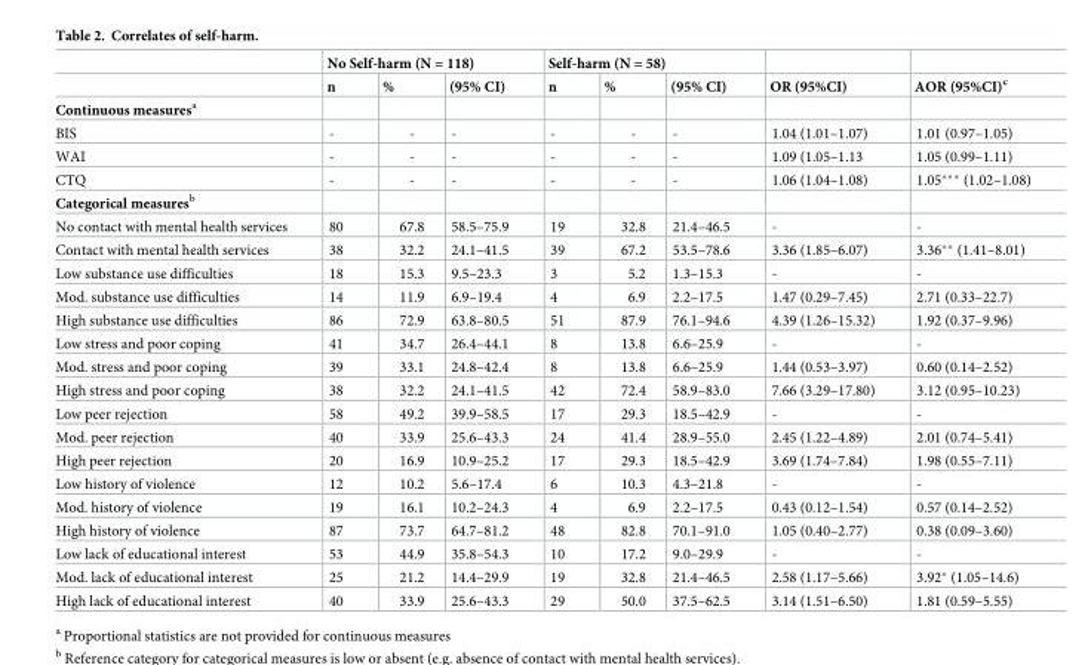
<table><thead><tr><td rowspan="2"></td><td colspan="3">No Self-harm (N = 118)</td><td colspan="3">Self-harm (N = 58)</td><td rowspan="2">OR (95%CI)</td><td rowspan="2">AOR (95%CI)<sup>c</sup></td></tr><tr><td>n</td><td>%</td><td>(95% CI)</td><td>n</td><td>%</td><td>(95% CI)</td></tr></thead><tbody><tr><td colspan="9">Continuous measures<sup>a</sup></td></tr><tr><td>BIS</td><td>-</td><td>-</td><td>-</td><td>-</td><td>-</td><td>-</td><td>1.04 (1.01–1.07)</td><td>1.01 (0.97–1.05)</td></tr><tr><td>WAI</td><td>-</td><td>-</td><td>-</td><td>-</td><td>-</td><td>-</td><td>1.09 (1.05–1.13</td><td>1.05 (0.99–1.11)</td></tr><tr><td>CTQ</td><td>-</td><td>-</td><td>-</td><td>-</td><td>-</td><td>-</td><td>1.06 (1.04–1.08)</td><td>1.05*** (1.02–1.08)</td></tr><tr><td colspan="9">Categorical measures<sup>b</sup></td></tr><tr><td>No contact with mental health services</td><td>80</td><td>67.8</td><td>58.5–75.9</td><td>19</td><td>32.8</td><td>21.4–46.5</td><td>-</td><td>-</td></tr><tr><td>Contact with mental health services</td><td>38</td><td>32.2</td><td>24.1–41.5</td><td>39</td><td>67.2</td><td>53.5–78.6</td><td>3.36 (1.85–6.07)</td><td>3.36** (1.41–8.01)</td></tr><tr><td>Low substance use difficulties</td><td>18</td><td>15.3</td><td>9.5–23.3</td><td>3</td><td>5.2</td><td>1.3–15.3</td><td>-</td><td>-</td></tr><tr><td>Mod. substance use difficulties</td><td>14</td><td>11.9</td><td>6.9–19.4</td><td>4</td><td>6.9</td><td>2.2–17.5</td><td>1.47 (0.29–7.45)</td><td>2.71 (0.33–22.7)</td></tr><tr><td>High substance use difficulties</td><td>86</td><td>72.9</td><td>63.8–80.5</td><td>51</td><td>87.9</td><td>76.1–94.6</td><td>4.39 (1.26–15.32)</td><td>1.92 (0.37–9.96)</td></tr><tr><td>Low stress and poor coping</td><td>41</td><td>34.7</td><td>26.4–44.1</td><td>8</td><td>13.8</td><td>6.6–25.9</td><td>-</td><td>-</td></tr><tr><td>Mod. stress and poor coping</td><td>39</td><td>33.1</td><td>24.8–42.4</td><td>8</td><td>13.8</td><td>6.6–25.9</td><td>1.44 (0.53–3.97)</td><td>0.60 (0.14–2.52)</td></tr><tr><td>High stress and poor coping</td><td>38</td><td>32.2</td><td>24.1–41.5</td><td>42</td><td>72.4</td><td>58.9–83.0</td><td>7.66 (3.29–17.80)</td><td>3.12 (0.95–10.23)</td></tr><tr><td>Low peer rejection</td><td>58</td><td>49.2</td><td>39.9–58.5</td><td>17</td><td>29.3</td><td>18.5–42.9</td><td>-</td><td>-</td></tr><tr><td>Mod. peer rejection</td><td>40</td><td>33.9</td><td>25.6–43.3</td><td>24</td><td>41.4</td><td>28.9–55.0</td><td>2.45 (1.22–4.89)</td><td>2.01 (0.74–5.41)</td></tr><tr><td>High peer rejection</td><td>20</td><td>16.9</td><td>10.9–25.2</td><td>17</td><td>29.3</td><td>18.5–42.9</td><td>3.69 (1.74–7.84)</td><td>1.98 (0.55–7.11)</td></tr><tr><td>Low history of violence</td><td>12</td><td>10.2</td><td>5.6–17.4</td><td>6</td><td>10.3</td><td>4.3–21.8</td><td>-</td><td>-</td></tr><tr><td>Mod. history of violence</td><td>19</td><td>16.1</td><td>10.2–24.3</td><td>4</td><td>6.9</td><td>2.2–17.5</td><td>0.43 (0.12–1.54)</td><td>0.57 (0.14–2.52)</td></tr><tr><td>High history of violence</td><td>87</td><td>73.7</td><td>64.7–81.2</td><td>48</td><td>82.8</td><td>70.1–91.0</td><td>1.05 (0.40–2.77)</td><td>0.38 (0.09–3.60)</td></tr><tr><td>Low lack of educational interest</td><td>53</td><td>44.9</td><td>35.8–54.3</td><td>10</td><td>17.2</td><td>9.0–29.9</td><td>-</td><td>-</td></tr><tr><td>Mod. lack of educational interest</td><td>25</td><td>21.2</td><td>14.4–29.9</td><td>19</td><td>32.8</td><td>21.4–46.5</td><td>2.58 (1.17–5.66)</td><td>3.92* (1.05–14.6)</td></tr><tr><td>High lack of educational interest</td><td>40</td><td>33.9</td><td>25.6–43.3</td><td>29</td><td>50.0</td><td>37.5–62.5</td><td>3.14 (1.51–6.50)</td><td>1.81 (0.59–5.55)</td></tr></tbody></table>